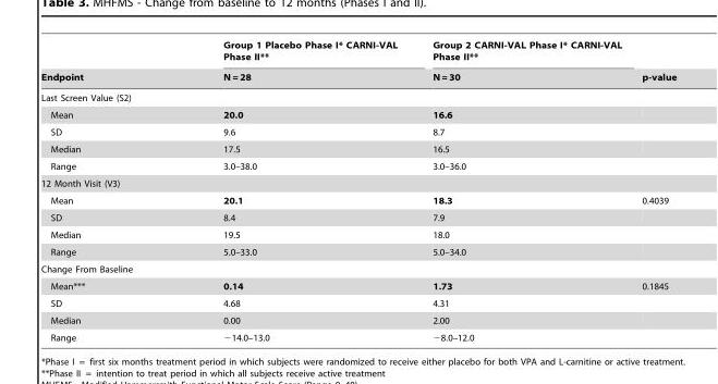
<table><thead><tr><td rowspan="2">Endpoint</td><td rowspan="2">Group 1 Placebo Phase I* CARNI-VAL Phase II** N = 28</td><td rowspan="2">Group 2 CARNI-VAL Phase I* CARNI-VAL Phase II** N = 30</td><td rowspan="2">p-value</td></tr><tr></tr></thead><tbody><tr><td colspan="4">Last Screen Value (S2)</td></tr><tr><td>Mean</td><td>20.0</td><td>16.6</td><td></td></tr><tr><td>SD</td><td>9.6</td><td>8.7</td><td></td></tr><tr><td>Median</td><td>17.5</td><td>16.5</td><td></td></tr><tr><td>Range</td><td>3.0–38.0</td><td>3.0–36.0</td><td></td></tr><tr><td colspan="4">12 Month Visit (V3)</td></tr><tr><td>Mean</td><td>20.1</td><td>18.3</td><td>0.4039</td></tr><tr><td>SD</td><td>8.4</td><td>7.9</td><td></td></tr><tr><td>Median</td><td>19.5</td><td>18.0</td><td></td></tr><tr><td>Range</td><td>5.0–33.0</td><td>5.0–34.0</td><td></td></tr><tr><td colspan="4">Change From Baseline</td></tr><tr><td>Mean***</td><td>0.14</td><td>1.73</td><td>0.1845</td></tr><tr><td>SD</td><td>4.68</td><td>4.31</td><td></td></tr><tr><td>Median</td><td>0.00</td><td>2.00</td><td></td></tr><tr><td>Range</td><td>−14.0–13.0</td><td>−8.0–12.0</td><td></td></tr></tbody></table>